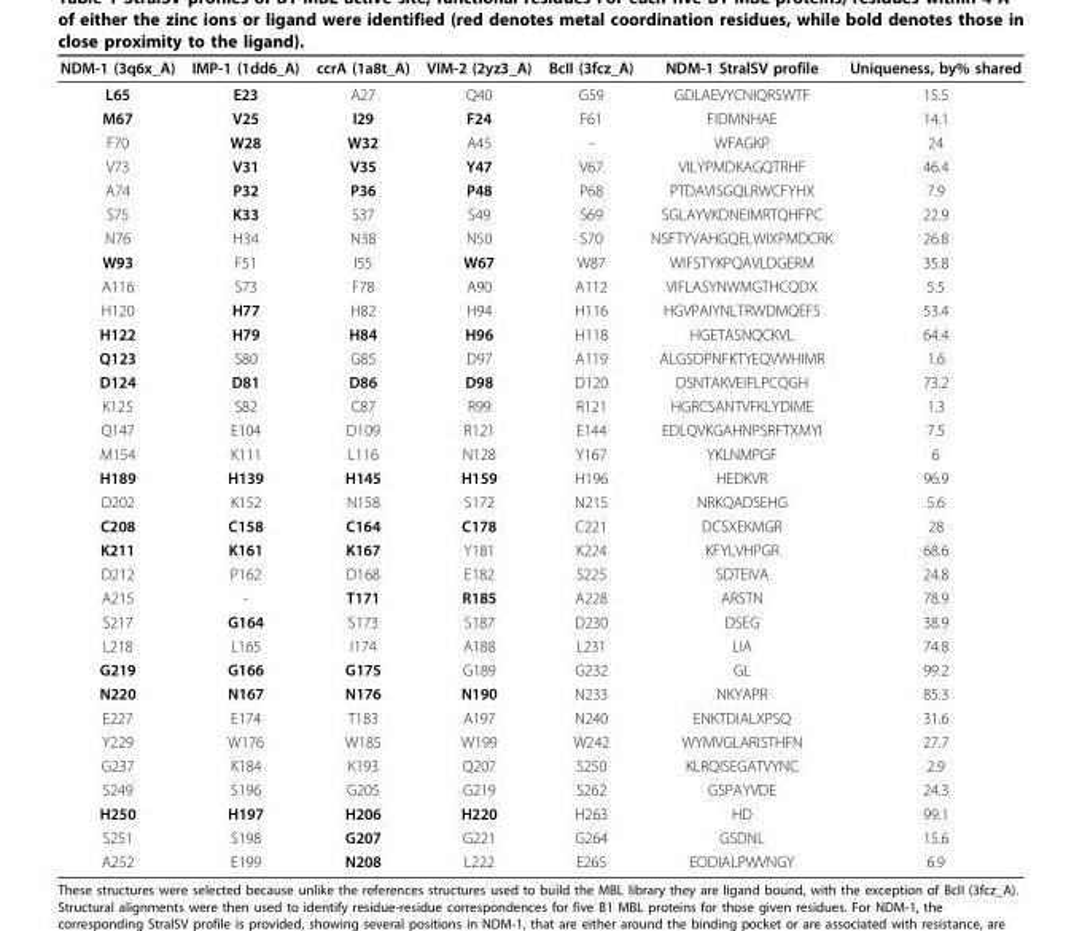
<table><thead><tr><td>NDM-1 (3q6x_A)</td><td>IMP-1 (1dd6_A)</td><td>ccrA (1a8t_A)</td><td>VIM-2 (2yz3_A)</td><td>BcII (3fcz_A)</td><td>NDM-1 StralSV profile</td><td>Uniqueness, by% shared</td></tr></thead><tbody><tr><td>L65</td><td>E23</td><td>A27</td><td>Q40</td><td>G59</td><td>GDLAEVYCNIQRSWTF</td><td>15.5</td></tr><tr><td>M67</td><td>V25</td><td>I29</td><td>F24</td><td>F61</td><td>FIDMNHAE</td><td>14.1</td></tr><tr><td>F70</td><td>W28</td><td>W32</td><td>A45</td><td>-</td><td>WFAGKP</td><td>24</td></tr><tr><td>V73</td><td>V31</td><td>V35</td><td>Y47</td><td>V67</td><td>VILYPMDKAGQTRHF</td><td>46.4</td></tr><tr><td>A74</td><td>P32</td><td>P36</td><td>P48</td><td>P68</td><td>PTDAVISGQLRWCFYHX</td><td>7.9</td></tr><tr><td>S75</td><td>K33</td><td>S37</td><td>S49</td><td>S69</td><td>SGLAYVKDNEIMRTQHFPC</td><td>22.9</td></tr><tr><td>N76</td><td>H34</td><td>N38</td><td>N50</td><td>S70</td><td>NSFTYVAHGQELWIXPMDCRK</td><td>26.8</td></tr><tr><td>W93</td><td>F51</td><td>I55</td><td>W67</td><td>W87</td><td>WIFSTYKPQAVLDGERM</td><td>35.8</td></tr><tr><td>A116</td><td>S73</td><td>F78</td><td>A90</td><td>A112</td><td>VIFLASYNWMGTHCQDX</td><td>5.5</td></tr><tr><td>H120</td><td>H77</td><td>H82</td><td>H94</td><td>H116</td><td>HGVPAIYNLTRWDMQEFS</td><td>53.4</td></tr><tr><td>H122</td><td>H79</td><td>H84</td><td>H96</td><td>H118</td><td>HGETASNQCKVL</td><td>64.4</td></tr><tr><td>Q123</td><td>S80</td><td>G85</td><td>D97</td><td>A119</td><td>ALGSDPNFKTYEQVWHIMR</td><td>1.6</td></tr><tr><td>D124</td><td>D81</td><td>D86</td><td>D98</td><td>D120</td><td>DSNTAKVEIFLPCQGH</td><td>73.2</td></tr><tr><td>K125</td><td>S82</td><td>C87</td><td>R99</td><td>R121</td><td>HGRCSANTVFKLYDIME</td><td>1.3</td></tr><tr><td>Q147</td><td>E104</td><td>D109</td><td>R121</td><td>E144</td><td>EDLQVKGAHNPSRFTXMYI</td><td>7.5</td></tr><tr><td>M154</td><td>K111</td><td>L116</td><td>N128</td><td>Y167</td><td>YKLNMPGF</td><td>6</td></tr><tr><td>H189</td><td>H139</td><td>H145</td><td>H159</td><td>H196</td><td>HEDKVR</td><td>96.9</td></tr><tr><td>D202</td><td>K152</td><td>N158</td><td>S172</td><td>N215</td><td>NRKQADSEHG</td><td>5.6</td></tr><tr><td>C208</td><td>C158</td><td>C164</td><td>C178</td><td>C221</td><td>DCSXEKMGR</td><td>28</td></tr><tr><td>K211</td><td>K161</td><td>K167</td><td>Y181</td><td>K224</td><td>KFYLVHPGR</td><td>68.6</td></tr><tr><td>D212</td><td>P162</td><td>D168</td><td>E182</td><td>S225</td><td>SDTEIVA</td><td>24.8</td></tr><tr><td>A215</td><td>-</td><td>T171</td><td>R185</td><td>A228</td><td>ARSTN</td><td>78.9</td></tr><tr><td>S217</td><td>G164</td><td>S173</td><td>S187</td><td>D230</td><td>DSEG</td><td>38.9</td></tr><tr><td>L218</td><td>L165</td><td>I174</td><td>A188</td><td>L231</td><td>LIA</td><td>74.8</td></tr><tr><td>G219</td><td>G166</td><td>G175</td><td>G189</td><td>G232</td><td>GL</td><td>99.2</td></tr><tr><td>N220</td><td>N167</td><td>N176</td><td>N190</td><td>N233</td><td>NKYAPR</td><td>85.3</td></tr><tr><td>E227</td><td>E174</td><td>T183</td><td>A197</td><td>N240</td><td>ENKTDIALXPSQ</td><td>31.6</td></tr><tr><td>Y229</td><td>W176</td><td>W185</td><td>W199</td><td>W242</td><td>WYMVGLARISTHFN</td><td>27.7</td></tr><tr><td>G237</td><td>K184</td><td>K193</td><td>Q207</td><td>S250</td><td>KLRQISEGATVYNC</td><td>2.9</td></tr><tr><td>S249</td><td>S196</td><td>G205</td><td>G219</td><td>S262</td><td>GSPAYVDE</td><td>24.3</td></tr><tr><td>H250</td><td>H197</td><td>H206</td><td>H220</td><td>H263</td><td>HD</td><td>99.1</td></tr><tr><td>S251</td><td>S198</td><td>G207</td><td>G221</td><td>G264</td><td>GSDNL</td><td>15.6</td></tr><tr><td>A252</td><td>E199</td><td>N208</td><td>L222</td><td>E265</td><td>EODIALPWVNGY</td><td>6.9</td></tr></tbody></table>